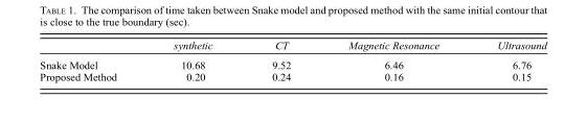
<table><thead><tr><td></td><td>synthetic</td><td>CT</td><td>Magnetic Resonance</td><td>Ultrasound</td></tr></thead><tbody><tr><td>Snake Model</td><td>10.68</td><td>9.52</td><td>6.46</td><td>6.76</td></tr><tr><td>Proposed Method</td><td>0.20</td><td>0.24</td><td>0.16</td><td>0.15</td></tr></tbody></table>